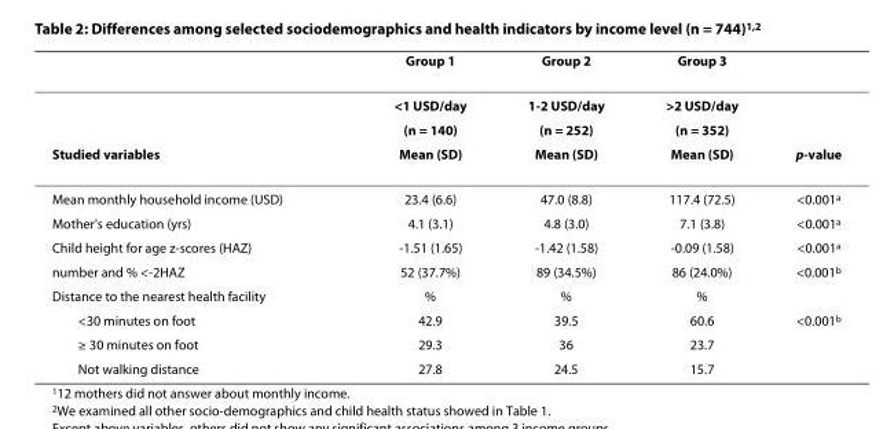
<table><thead><tr><td></td><td>Group 1</td><td>Group 2</td><td>Group 3</td><td></td></tr></thead><tbody><tr><td></td><td>&lt;1 USD/day</td><td>1-2 USD/day</td><td>&gt;2 USD/day</td><td></td></tr><tr><td></td><td>(n = 140)</td><td>(n = 252)</td><td>(n = 352)</td><td></td></tr><tr><td>Studied variables</td><td>Mean (SD)</td><td>Mean (SD)</td><td>Mean (SD)</td><td>p-value</td></tr><tr><td>Mean monthly household income (USD)</td><td>23.4 (6.6)</td><td>47.0 (8.8)</td><td>117.4 (72.5)</td><td>&lt;0.001<sup>a</sup></td></tr><tr><td>Mother&#x27;s education (yrs)</td><td>4.1 (3.1)</td><td>4.8 (3.0)</td><td>7.1 (3.8)</td><td>&lt;0.001<sup>a</sup></td></tr><tr><td>Child height for age z-scores (HAZ)</td><td>-1.51 (1.65)</td><td>-1.42 (1.58)</td><td>-0.09 (1.58)</td><td>&lt;0.001<sup>a</sup></td></tr><tr><td>number and % &lt;-2HAZ</td><td>52 (37.7%)</td><td>89 (34.5%)</td><td>86 (24.0%)</td><td>&lt;0.001<sup>b</sup></td></tr><tr><td>Distance to the nearest health facility</td><td>%</td><td>%</td><td>%</td><td></td></tr><tr><td>&lt;30 minutes on foot</td><td>42.9</td><td>39.5</td><td>60.6</td><td>&lt;0.001<sup>b</sup></td></tr><tr><td>≥ 30 minutes on foot</td><td>29.3</td><td>36</td><td>23.7</td><td></td></tr><tr><td>Not walking distance</td><td>27.8</td><td>24.5</td><td>15.7</td><td></td></tr></tbody></table>